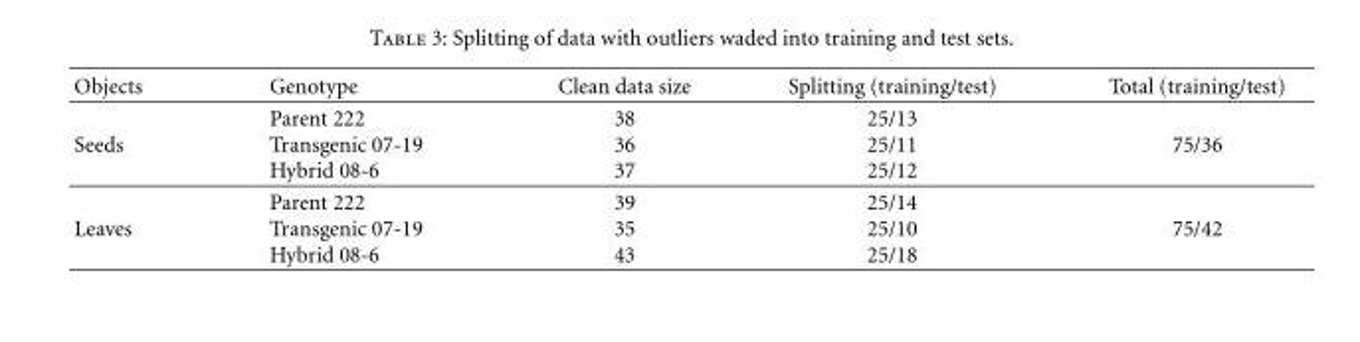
<table><thead><tr><td>Objects</td><td>Genotype</td><td>Clean data size</td><td>Splitting (training/test)</td><td>Total (training/test)</td></tr></thead><tbody><tr><td>Seeds</td><td>Parent 222 Transgenic 07-19 Hybrid 08-6</td><td>38 36 37</td><td>25/13 25/11 25/12</td><td>75/36</td></tr><tr><td>Leaves</td><td>Parent 222 Transgenic 07-19 Hybrid 08-6</td><td>39 35 43</td><td>25/14 25/10 25/18</td><td>75/42</td></tr></tbody></table>